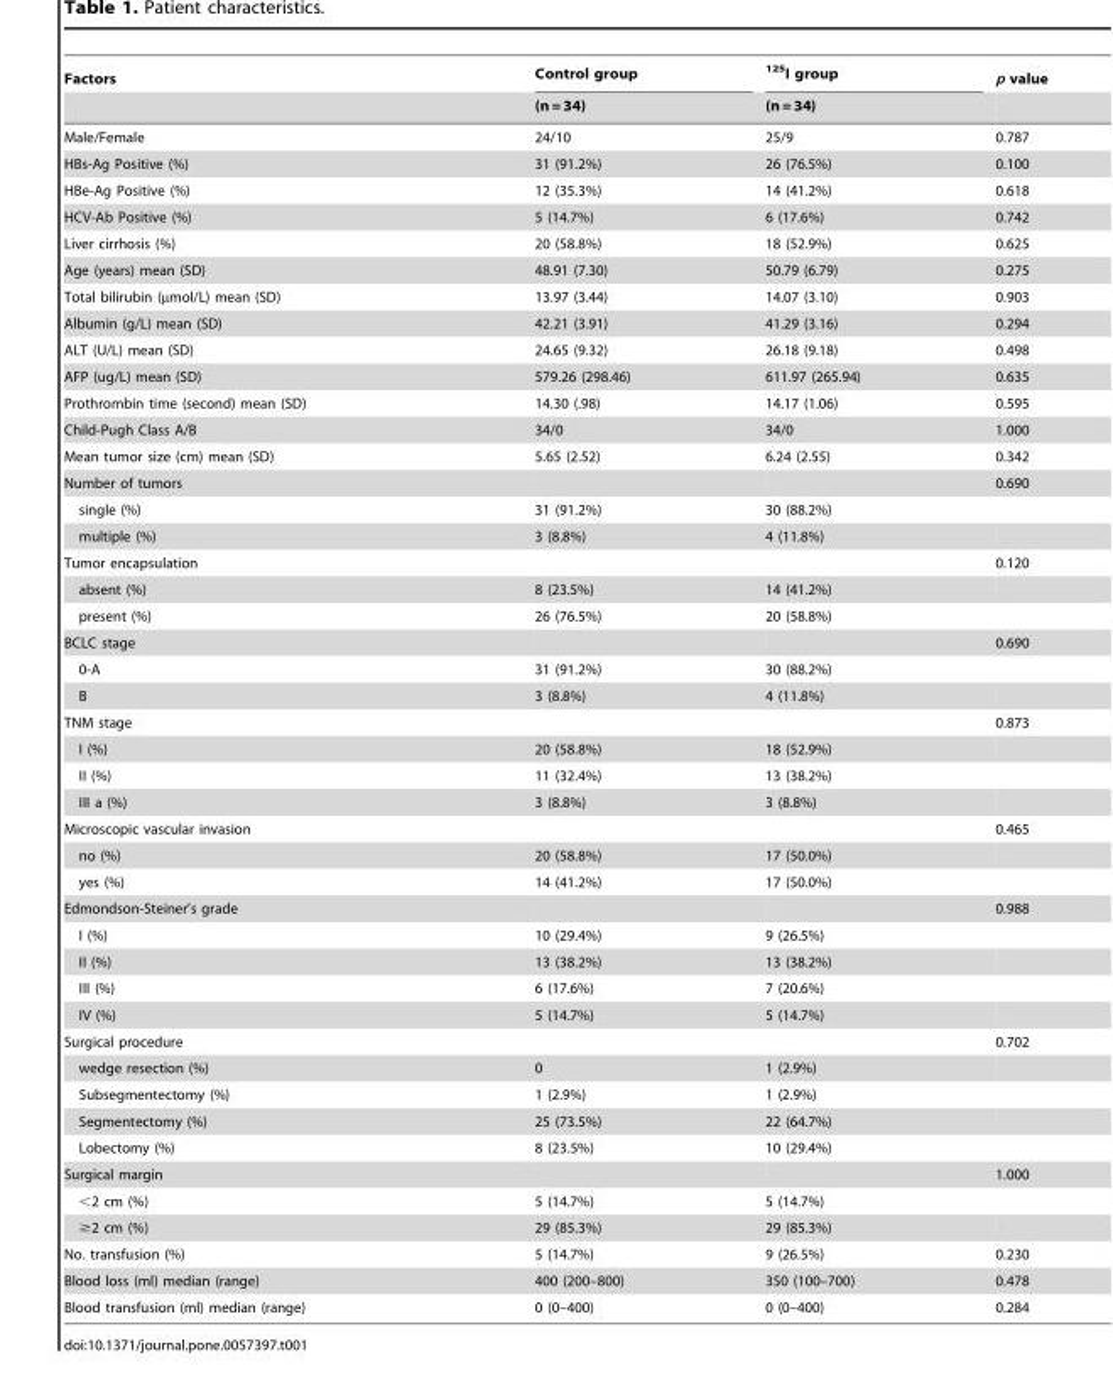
<table><thead><tr><td rowspan="2">Factors</td><td rowspan="2">Control group (n = 34)</td><td rowspan="2"><sup>125</sup>I group (n = 34)</td><td rowspan="2">p value</td></tr><tr></tr></thead><tbody><tr><td>Male/Female</td><td>24/10</td><td>25/9</td><td>0.787</td></tr><tr><td>HBs-Ag Positive (%)</td><td>31 (91.2%)</td><td>26 (76.5%)</td><td>0.100</td></tr><tr><td>HBe-Ag Positive (%)</td><td>12 (35.3%)</td><td>14 (41.2%)</td><td>0.618</td></tr><tr><td>HCV-Ab Positive (%)</td><td>5 (14.7%)</td><td>6 (17.6%)</td><td>0.742</td></tr><tr><td>Liver cirrhosis (%)</td><td>20 (58.8%)</td><td>18 (52.9%)</td><td>0.625</td></tr><tr><td>Age (years) mean (SD)</td><td>48.91 (7.30)</td><td>50.79 (6.79)</td><td>0.275</td></tr><tr><td>Total bilirubin (µmol/L) mean (SD)</td><td>13.97 (3.44)</td><td>14.07 (3.10)</td><td>0.903</td></tr><tr><td>Albumin (g/L) mean (SD)</td><td>42.21 (3.91)</td><td>41.29 (3.16)</td><td>0.294</td></tr><tr><td>ALT (U/L) mean (SD)</td><td>24.65 (9.32)</td><td>26.18 (9.18)</td><td>0.498</td></tr><tr><td>AFP (ug/L) mean (SD)</td><td>579.26 (298.46)</td><td>611.97 (265.94)</td><td>0.635</td></tr><tr><td>Prothrombin time (second) mean (SD)</td><td>14.30 (.98)</td><td>14.17 (1.06)</td><td>0.595</td></tr><tr><td>Child-Pugh Class A/B</td><td>34/0</td><td>34/0</td><td>1.000</td></tr><tr><td>Mean tumor size (cm) mean (SD)</td><td>5.65 (2.52)</td><td>6.24 (2.55)</td><td>0.342</td></tr><tr><td>Number of tumors</td><td></td><td></td><td>0.690</td></tr><tr><td>single (%)</td><td>31 (91.2%)</td><td>30 (88.2%)</td><td></td></tr><tr><td>multiple (%)</td><td>3 (8.8%)</td><td>4 (11.8%)</td><td></td></tr><tr><td>Tumor encapsulation</td><td></td><td></td><td>0.120</td></tr><tr><td>absent (%)</td><td>8 (23.5%)</td><td>14 (41.2%)</td><td></td></tr><tr><td>present (%)</td><td>26 (76.5%)</td><td>20 (58.8%)</td><td></td></tr><tr><td>BCLC stage</td><td></td><td></td><td>0.690</td></tr><tr><td>0-A</td><td>31 (91.2%)</td><td>30 (88.2%)</td><td></td></tr><tr><td>B</td><td>3 (8.8%)</td><td>4 (11.8%)</td><td></td></tr><tr><td>TNM stage</td><td></td><td></td><td>0.873</td></tr><tr><td>I (%)</td><td>20 (58.8%)</td><td>18 (52.9%)</td><td></td></tr><tr><td>II (%)</td><td>11 (32.4%)</td><td>13 (38.2%)</td><td></td></tr><tr><td>III a (%)</td><td>3 (8.8%)</td><td>3 (8.8%)</td><td></td></tr><tr><td>Microscopic vascular invasion</td><td></td><td></td><td>0.465</td></tr><tr><td>no (%)</td><td>20 (58.8%)</td><td>17 (50.0%)</td><td></td></tr><tr><td>yes (%)</td><td>14 (41.2%)</td><td>17 (50.0%)</td><td></td></tr><tr><td>Edmondson-Steiner’s grade</td><td></td><td></td><td>0.988</td></tr><tr><td>I (%)</td><td>10 (29.4%)</td><td>9 (26.5%)</td><td></td></tr><tr><td>II (%)</td><td>13 (38.2%)</td><td>13 (38.2%)</td><td></td></tr><tr><td>III (%)</td><td>6 (17.6%)</td><td>7 (20.6%)</td><td></td></tr><tr><td>IV (%)</td><td>5 (14.7%)</td><td>5 (14.7%)</td><td></td></tr><tr><td>Surgical procedure</td><td></td><td></td><td>0.702</td></tr><tr><td>wedge resection (%)</td><td>0</td><td>1 (2.9%)</td><td></td></tr><tr><td>Subsegmentectomy (%)</td><td>1 (2.9%)</td><td>1 (2.9%)</td><td></td></tr><tr><td>Segmentectomy (%)</td><td>25 (73.5%)</td><td>22 (64.7%)</td><td></td></tr><tr><td>Lobectomy (%)</td><td>8 (23.5%)</td><td>10 (29.4%)</td><td></td></tr><tr><td>Surgical margin</td><td></td><td></td><td>1.000</td></tr><tr><td>&lt;2 cm (%)</td><td>5 (14.7%)</td><td>5 (14.7%)</td><td></td></tr><tr><td>≥2 cm (%)</td><td>29 (85.3%)</td><td>29 (85.3%)</td><td></td></tr><tr><td>No. transfusion (%)</td><td>5 (14.7%)</td><td>9 (26.5%)</td><td>0.230</td></tr><tr><td>Blood loss (ml) median (range)</td><td>400 (200–800)</td><td>350 (100–700)</td><td>0.478</td></tr><tr><td>Blood transfusion (ml) median (range)</td><td>0 (0–400)</td><td>0 (0–400)</td><td>0.284</td></tr></tbody></table>